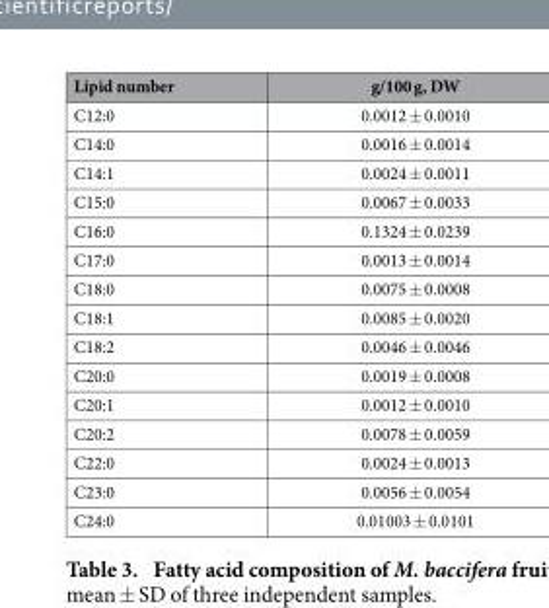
<table><thead><tr><td>Lipid number</td><td>g/100 g, DW</td></tr></thead><tbody><tr><td>C12:0</td><td>0.0012 ± 0.0010</td></tr><tr><td>C14:0</td><td>0.0016 ± 0.0014</td></tr><tr><td>C14:1</td><td>0.0024 ± 0.0011</td></tr><tr><td>C15:0</td><td>0.0067 ± 0.0033</td></tr><tr><td>C16:0</td><td>0.1324 ± 0.0239</td></tr><tr><td>C17:0</td><td>0.0013 ± 0.0014</td></tr><tr><td>C18:0</td><td>0.0075 ± 0.0008</td></tr><tr><td>C18:1</td><td>0.0085 ± 0.0020</td></tr><tr><td>C18:2</td><td>0.0046 ± 0.0046</td></tr><tr><td>C20:0</td><td>0.0019 ± 0.0008</td></tr><tr><td>C20:1</td><td>0.0012 ± 0.0010</td></tr><tr><td>C20:2</td><td>0.0078 ± 0.0059</td></tr><tr><td>C22:0</td><td>0.0024 ± 0.0013</td></tr><tr><td>C23:0</td><td>0.0056 ± 0.0054</td></tr><tr><td>C24:0</td><td>0.01003 ± 0.0101</td></tr></tbody></table>